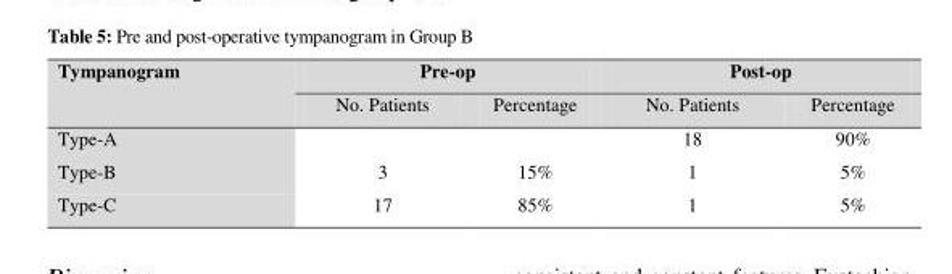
<table><thead><tr><td rowspan="2">Tympanogram</td><td colspan="2">Pre-op</td><td colspan="2">Post-op</td></tr><tr><td>No. Patients</td><td>Percentage</td><td>No. Patients</td><td>Percentage</td></tr></thead><tbody><tr><td>Type-A</td><td></td><td></td><td>18</td><td>90%</td></tr><tr><td>Type-B</td><td>3</td><td>15%</td><td>1</td><td>5%</td></tr><tr><td>Type-C</td><td>17</td><td>85%</td><td>1</td><td>5%</td></tr></tbody></table>